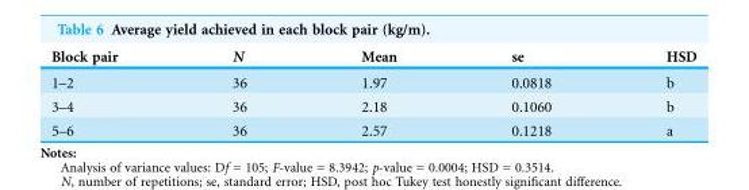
<table><thead><tr><td>Block pair</td><td>N</td><td>Mean</td><td>se</td><td>HSD</td></tr></thead><tbody><tr><td>1–2</td><td>36</td><td>1.97</td><td>0.0818</td><td>b</td></tr><tr><td>3–4</td><td>36</td><td>2.18</td><td>0.1060</td><td>b</td></tr><tr><td>5–6</td><td>36</td><td>2.57</td><td>0.1218</td><td>a</td></tr></tbody></table>